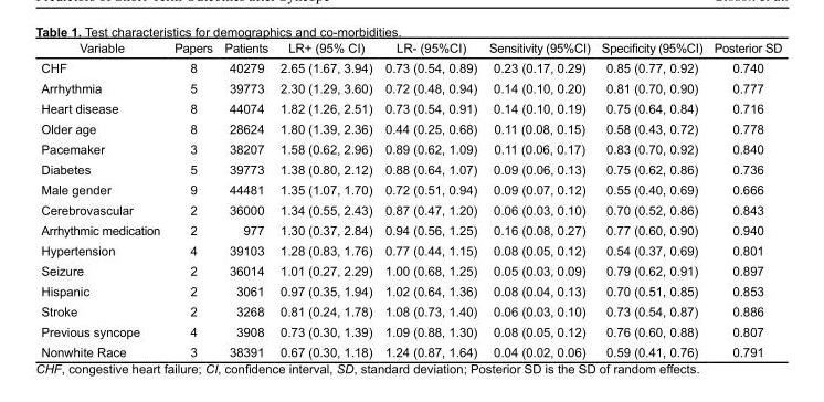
<table><thead><tr><td>Variable</td><td>Papers</td><td>Patients</td><td>LR+ (95% CI)</td><td>LR- (95%CI)</td><td>Sensitivity (95%CI)</td><td>Specificity (95%CI)</td><td>Posterior SD</td></tr></thead><tbody><tr><td>CHF</td><td>8</td><td>40279</td><td>2.65 (1.67, 3.94)</td><td>0.73 (0.54, 0.89)</td><td>0.23 (0.17, 0.29)</td><td>0.85 (0.77, 0.92)</td><td>0.740</td></tr><tr><td>Arrhythmia</td><td>5</td><td>39773</td><td>2.30 (1.29, 3.60)</td><td>0.72 (0.48, 0.94)</td><td>0.14 (0.10, 0.20)</td><td>0.81 (0.70, 0.90)</td><td>0.777</td></tr><tr><td>Heart disease</td><td>8</td><td>44074</td><td>1.82 (1.26, 2.51)</td><td>0.73 (0.54, 0.91)</td><td>0.14 (0.10, 0.19)</td><td>0.75 (0.64, 0.84)</td><td>0.716</td></tr><tr><td>Older age</td><td>8</td><td>28624</td><td>1.80 (1.39, 2.36)</td><td>0.44 (0.25, 0.68)</td><td>0.11 (0.08, 0.15)</td><td>0.58 (0.43, 0.72)</td><td>0.778</td></tr><tr><td>Pacemaker</td><td>3</td><td>38207</td><td>1.58 (0.62, 2.96)</td><td>0.89 (0.62, 1.09)</td><td>0.11 (0.06, 0.17)</td><td>0.83 (0.70, 0.92)</td><td>0.840</td></tr><tr><td>Diabetes</td><td>5</td><td>39773</td><td>1.38 (0.80, 2.12)</td><td>0.88 (0.64, 1.07)</td><td>0.09 (0.06, 0.13)</td><td>0.75 (0.62, 0.86)</td><td>0.736</td></tr><tr><td>Male gender</td><td>9</td><td>44481</td><td>1.35 (1.07, 1.70)</td><td>0.72 (0.51, 0.94)</td><td>0.09 (0.07, 0.12)</td><td>0.55 (0.40, 0.69)</td><td>0.666</td></tr><tr><td>Cerebrovascular</td><td>2</td><td>36000</td><td>1.34 (0.55, 2.43)</td><td>0.87 (0.47, 1.20)</td><td>0.06 (0.03, 0.10)</td><td>0.70 (0.52, 0.86)</td><td>0.843</td></tr><tr><td>Arrhythmic medication</td><td>2</td><td>977</td><td>1.30 (0.37, 2.84)</td><td>0.94 (0.56, 1.25)</td><td>0.16 (0.08, 0.27)</td><td>0.77 (0.60, 0.90)</td><td>0.940</td></tr><tr><td>Hypertension</td><td>4</td><td>39103</td><td>1.28 (0.83, 1.76)</td><td>0.77 (0.44, 1.15)</td><td>0.08 (0.05, 0.12)</td><td>0.54 (0.37, 0.69)</td><td>0.801</td></tr><tr><td>Seizure</td><td>2</td><td>36014</td><td>1.01 (0.27, 2.29)</td><td>1.00 (0.68, 1.25)</td><td>0.05 (0.03, 0.09)</td><td>0.79 (0.62, 0.91)</td><td>0.897</td></tr><tr><td>Hispanic</td><td>2</td><td>3061</td><td>0.97 (0.35, 1.94)</td><td>1.02 (0.64, 1.36)</td><td>0.08 (0.04, 0.13)</td><td>0.70 (0.51, 0.85)</td><td>0.853</td></tr><tr><td>Stroke</td><td>2</td><td>3268</td><td>0.81 (0.24, 1.78)</td><td>1.08 (0.73, 1.40)</td><td>0.06 (0.03, 0.10)</td><td>0.73 (0.54, 0.87)</td><td>0.886</td></tr><tr><td>Previous syncope</td><td>4</td><td>3908</td><td>0.73 (0.30, 1.39)</td><td>1.09 (0.88, 1.30)</td><td>0.08 (0.05, 0.12)</td><td>0.76 (0.60, 0.88)</td><td>0.807</td></tr><tr><td>Nonwhite Race</td><td>3</td><td>38391</td><td>0.67 (0.30, 1.18)</td><td>1.24 (0.87, 1.64)</td><td>0.04 (0.02, 0.06)</td><td>0.59 (0.41, 0.76)</td><td>0.791</td></tr></tbody></table>